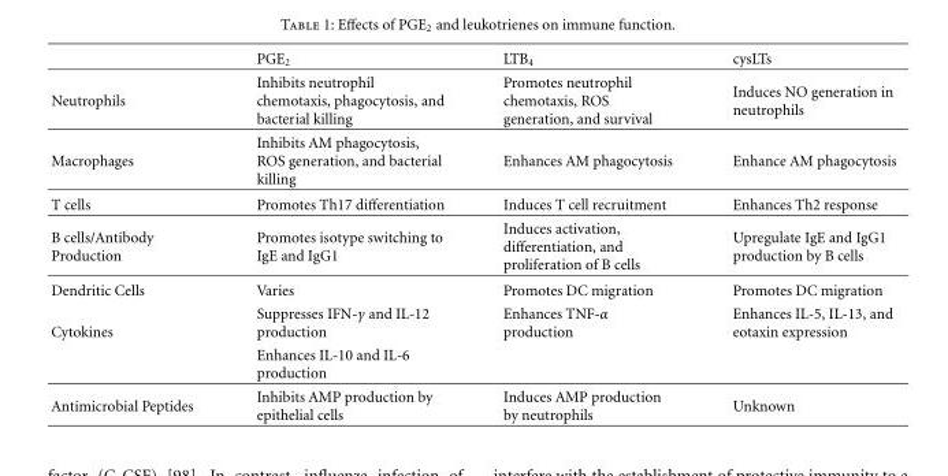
<table><thead><tr><td></td><td>PGE<sub>2</sub></td><td>LTB<sub>4</sub></td><td>cysLTs</td></tr></thead><tbody><tr><td>Neutrophils</td><td>Inhibits neutrophil chemotaxis, phagocytosis, and bacterial killing</td><td>Promotes neutrophil chemotaxis, ROS generation, and survival</td><td>Induces NO generation in neutrophils</td></tr><tr><td>Macrophages</td><td>Inhibits AM phagocytosis, ROS generation, and bacterial killing</td><td>Enhances AM phagocytosis</td><td>Enhance AM phagocytosis</td></tr><tr><td>T cells</td><td>Promotes Th17 differentiation</td><td>Induces T cell recruitment</td><td>Enhances Th2 response</td></tr><tr><td>B cells/Antibody Production</td><td>Promotes isotype switching to IgE and IgG1</td><td>Induces activation, differentiation, and proliferation of B cells</td><td>Upregulate IgE and IgG1 production by B cells</td></tr><tr><td>Dendritic Cells</td><td>Varies</td><td>Promotes DC migration</td><td>Promotes DC migration</td></tr><tr><td rowspan="2">Cytokines</td><td>Suppresses IFN-γ and IL-12 production</td><td>Enhances TNF-α production</td><td>Enhances IL-5, IL-13, and eotaxin expression</td></tr><tr><td>Enhances IL-10 and IL-6 production</td><td></td><td></td></tr><tr><td>Antimicrobial Peptides</td><td>Inhibits AMP production by epithelial cells</td><td>Induces AMP production by neutrophils</td><td>Unknown</td></tr></tbody></table>